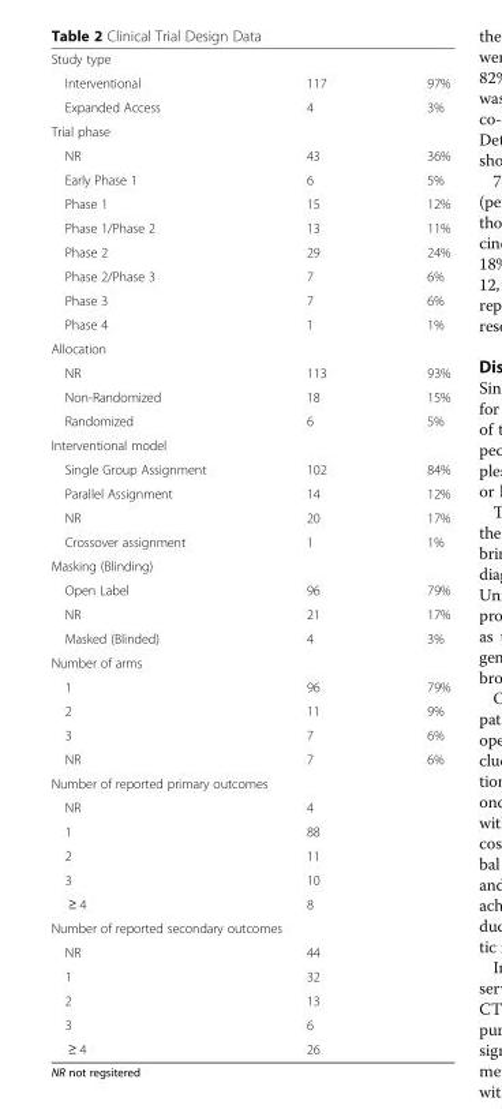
<table><tbody><tr><td colspan="3">Study type</td></tr><tr><td>Interventional</td><td>117</td><td>97%</td></tr><tr><td>Expanded Access</td><td>4</td><td>3%</td></tr><tr><td colspan="3">Trial phase</td></tr><tr><td>NR</td><td>43</td><td>36%</td></tr><tr><td>Early Phase 1</td><td>6</td><td>5%</td></tr><tr><td>Phase 1</td><td>15</td><td>12%</td></tr><tr><td>Phase 1/Phase 2</td><td>13</td><td>11%</td></tr><tr><td>Phase 2</td><td>29</td><td>24%</td></tr><tr><td>Phase 2/Phase 3</td><td>7</td><td>6%</td></tr><tr><td>Phase 3</td><td>7</td><td>6%</td></tr><tr><td>Phase 4</td><td>1</td><td>1%</td></tr><tr><td colspan="3">Allocation</td></tr><tr><td>NR</td><td>113</td><td>93%</td></tr><tr><td>Non-Randomized</td><td>18</td><td>15%</td></tr><tr><td>Randomized</td><td>6</td><td>5%</td></tr><tr><td colspan="3">Interventional model</td></tr><tr><td>Single Group Assignment</td><td>102</td><td>84%</td></tr><tr><td>Parallel Assignment</td><td>14</td><td>12%</td></tr><tr><td>NR</td><td>20</td><td>17%</td></tr><tr><td>Crossover assignment</td><td>1</td><td>1%</td></tr><tr><td colspan="3">Masking (Blinding)</td></tr><tr><td>Open Label</td><td>96</td><td>79%</td></tr><tr><td>NR</td><td>21</td><td>17%</td></tr><tr><td>Masked (Blinded)</td><td>4</td><td>3%</td></tr><tr><td colspan="3">Number of arms</td></tr><tr><td>1</td><td>96</td><td>79%</td></tr><tr><td>2</td><td>11</td><td>9%</td></tr><tr><td>3</td><td>7</td><td>6%</td></tr><tr><td>NR</td><td>7</td><td>6%</td></tr><tr><td colspan="3">Number of reported primary outcomes</td></tr><tr><td>NR</td><td>4</td><td rowspan="5"></td></tr><tr><td>1</td><td>88</td></tr><tr><td>2</td><td>11</td></tr><tr><td>3</td><td>10</td></tr><tr><td>≥ 4</td><td>8</td></tr><tr><td colspan="3">Number of reported secondary outcomes</td></tr><tr><td>NR</td><td>44</td><td rowspan="5"></td></tr><tr><td>1</td><td>32</td></tr><tr><td>2</td><td>13</td></tr><tr><td>3</td><td>6</td></tr><tr><td>≥ 4</td><td>26</td></tr></tbody></table>